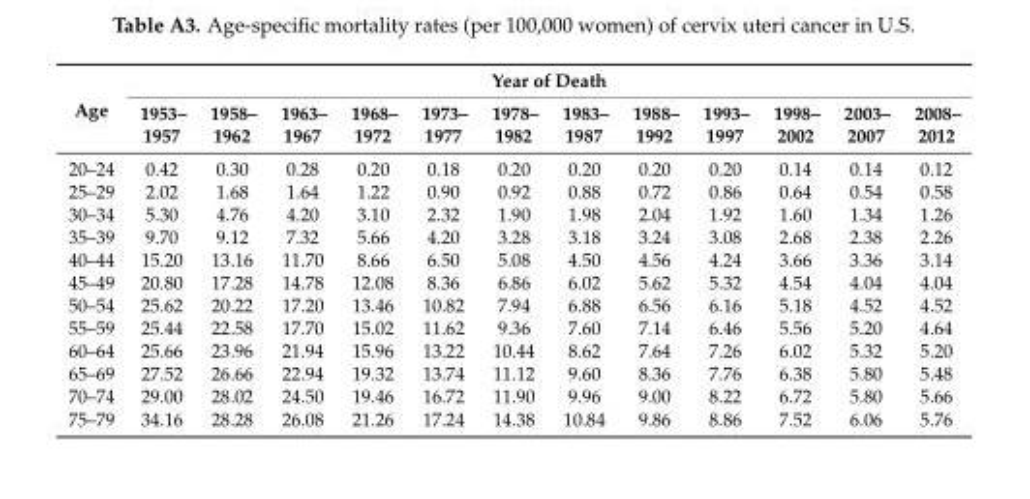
<table><thead><tr><td rowspan="2">Age</td><td colspan="12">Year of Death</td></tr><tr><td>1953– 1957</td><td>1958– 1962</td><td>1963– 1967</td><td>1968– 1972</td><td>1973– 1977</td><td>1978– 1982</td><td>1983– 1987</td><td>1988– 1992</td><td>1993– 1997</td><td>1998– 2002</td><td>2003– 2007</td><td>2008– 2012</td></tr></thead><tbody><tr><td>20–24</td><td>0.42</td><td>0.30</td><td>0.28</td><td>0.20</td><td>0.18</td><td>0.20</td><td>0.20</td><td>0.20</td><td>0.20</td><td>0.14</td><td>0.14</td><td>0.12</td></tr><tr><td>25–29</td><td>2.02</td><td>1.68</td><td>1.64</td><td>1.22</td><td>0.90</td><td>0.92</td><td>0.88</td><td>0.72</td><td>0.86</td><td>0.64</td><td>0.54</td><td>0.58</td></tr><tr><td>30–34</td><td>5.30</td><td>4.76</td><td>4.20</td><td>3.10</td><td>2.32</td><td>1.90</td><td>1.98</td><td>2.04</td><td>1.92</td><td>1.60</td><td>1.34</td><td>1.26</td></tr><tr><td>35–39</td><td>9.70</td><td>9.12</td><td>7.32</td><td>5.66</td><td>4.20</td><td>3.28</td><td>3.18</td><td>3.24</td><td>3.08</td><td>2.68</td><td>2.38</td><td>2.26</td></tr><tr><td>40–44</td><td>15.20</td><td>13.16</td><td>11.70</td><td>8.66</td><td>6.50</td><td>5.08</td><td>4.50</td><td>4.56</td><td>4.24</td><td>3.66</td><td>3.36</td><td>3.14</td></tr><tr><td>45–49</td><td>20.80</td><td>17.28</td><td>14.78</td><td>12.08</td><td>8.36</td><td>6.86</td><td>6.02</td><td>5.62</td><td>5.32</td><td>4.54</td><td>4.04</td><td>4.04</td></tr><tr><td>50–54</td><td>25.62</td><td>20.22</td><td>17.20</td><td>13.46</td><td>10.82</td><td>7.94</td><td>6.88</td><td>6.56</td><td>6.16</td><td>5.18</td><td>4.52</td><td>4.52</td></tr><tr><td>55–59</td><td>25.44</td><td>22.58</td><td>17.70</td><td>15.02</td><td>11.62</td><td>9.36</td><td>7.60</td><td>7.14</td><td>6.46</td><td>5.56</td><td>5.20</td><td>4.64</td></tr><tr><td>60–64</td><td>25.66</td><td>23.96</td><td>21.94</td><td>15.96</td><td>13.22</td><td>10.44</td><td>8.62</td><td>7.64</td><td>7.26</td><td>6.02</td><td>5.32</td><td>5.20</td></tr><tr><td>65–69</td><td>27.52</td><td>26.66</td><td>22.94</td><td>19.32</td><td>13.74</td><td>11.12</td><td>9.60</td><td>8.36</td><td>7.76</td><td>6.38</td><td>5.80</td><td>5.48</td></tr><tr><td>70–74</td><td>29.00</td><td>28.02</td><td>24.50</td><td>19.46</td><td>16.72</td><td>11.90</td><td>9.96</td><td>9.00</td><td>8.22</td><td>6.72</td><td>5.80</td><td>5.66</td></tr><tr><td>75–79</td><td>34.16</td><td>28.28</td><td>26.08</td><td>21.26</td><td>17.24</td><td>14.38</td><td>10.84</td><td>9.86</td><td>8.86</td><td>7.52</td><td>6.06</td><td>5.76</td></tr></tbody></table>